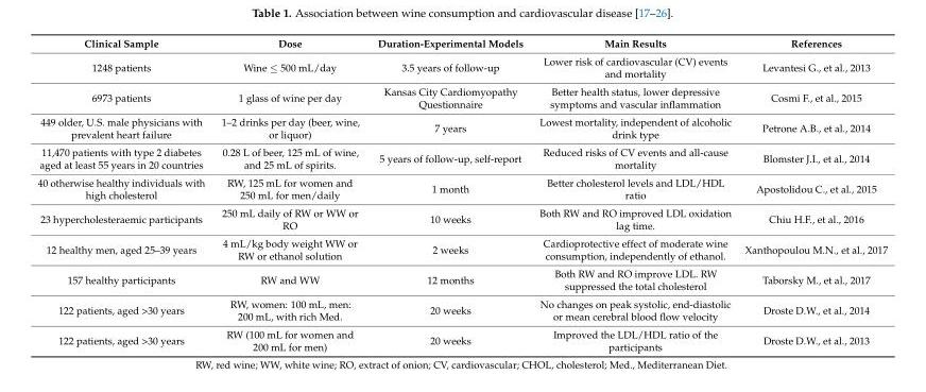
<table><thead><tr><td>Clinical Sample</td><td>Dose</td><td>Duration-Experimental Models</td><td>Main Results</td><td>References</td></tr></thead><tbody><tr><td>1248 patients</td><td>Wine ≤ 500 mL/day</td><td>3.5 years of follow-up</td><td>Lower risk of cardiovascular (CV) events and mortality</td><td>Levantesi G., et al., 2013</td></tr><tr><td>6973 patients</td><td>1 glass of wine per day</td><td>Kansas City Cardiomyopathy Questionnaire</td><td>Better health status, lower depressive symptoms and vascular inflammation</td><td>Cosmi F., et al., 2015</td></tr><tr><td>449 older, U.S. male physicians with prevalent heart failure</td><td>1–2 drinks per day (beer, wine, or liquor)</td><td>7 years</td><td>Lowest mortality, independent of alcoholic drink type</td><td>Petrone A.B., et al., 2014</td></tr><tr><td>11,470 patients with type 2 diabetes aged at least 55 years in 20 countries</td><td>0.28 L of beer, 125 mL of wine, and 25 mL of spirits.</td><td>5 years of follow-up, self-report</td><td>Reduced risks of CV events and all-cause mortality</td><td>Blomster J.I., et al., 2014</td></tr><tr><td>40 otherwise healthy individuals with high cholesterol</td><td>RW, 125 mL for women and 250 mL for men/daily</td><td>1 month</td><td>Better cholesterol levels and LDL/HDL ratio</td><td>Apostolidou C., et al., 2015</td></tr><tr><td>23 hypercholesteraemic participants</td><td>250 mL daily of RW or WW or RO</td><td>10 weeks</td><td>Both RW and RO improved LDL oxidation lag time.</td><td>Chiu H.F., et al., 2016</td></tr><tr><td>12 healthy men, aged 25–39 years</td><td>4 mL/kg body weight WW or RW or ethanol solution</td><td>2 weeks</td><td>Cardioprotective effect of moderate wine consumption, independently of ethanol.</td><td>Xanthopoulou M.N., et al., 2017</td></tr><tr><td>157 healthy participants</td><td>RW and WW</td><td>12 months</td><td>Both RW and RO improve LDL. RW suppressed the total cholesterol</td><td>Taborsky M., et al., 2017</td></tr><tr><td>122 patients, aged &gt;30 years</td><td>RW, women: 100 mL, men: 200 mL, with rich Med.</td><td>20 weeks</td><td>No changes on peak systolic, end-diastolic or mean cerebral blood flow velocity</td><td>Droste D.W., et al., 2014</td></tr><tr><td>122 patients, aged &gt;30 years</td><td>RW (100 mL for women and 200 mL for men)</td><td>20 weeks</td><td>Improved the LDL/HDL ratio of the participants</td><td>Droste D.W., et al., 2013</td></tr></tbody></table>